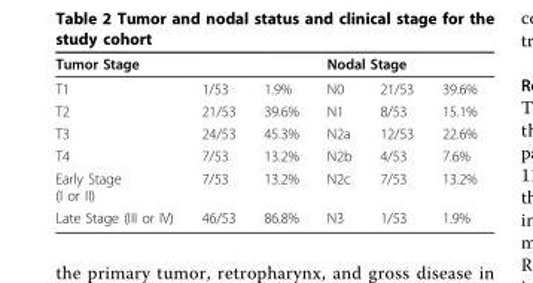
<table><thead><tr><td colspan="3">Tumor Stage</td><td colspan="3">Nodal Stage</td></tr><tr><td>T1</td><td>1/53</td><td>1.9%</td><td>N0</td><td>21/53</td><td>39.6%</td></tr></thead><tbody><tr><td>T2</td><td>21/53</td><td>39.6%</td><td>N1</td><td>8/53</td><td>15.1%</td></tr><tr><td>T3</td><td>24/53</td><td>45.3%</td><td>N2a</td><td>12/53</td><td>22.6%</td></tr><tr><td>T4</td><td>7/53</td><td>13.2%</td><td>N2b</td><td>4/53</td><td>7.6%</td></tr><tr><td>Early Stage (I or II)</td><td>7/53</td><td>13.2%</td><td>N2c</td><td>7/53</td><td>13.2%</td></tr><tr><td>Late Stage (III or IV)</td><td>46/53</td><td>86.8%</td><td>N3</td><td>1/53</td><td>1.9%</td></tr></tbody></table>